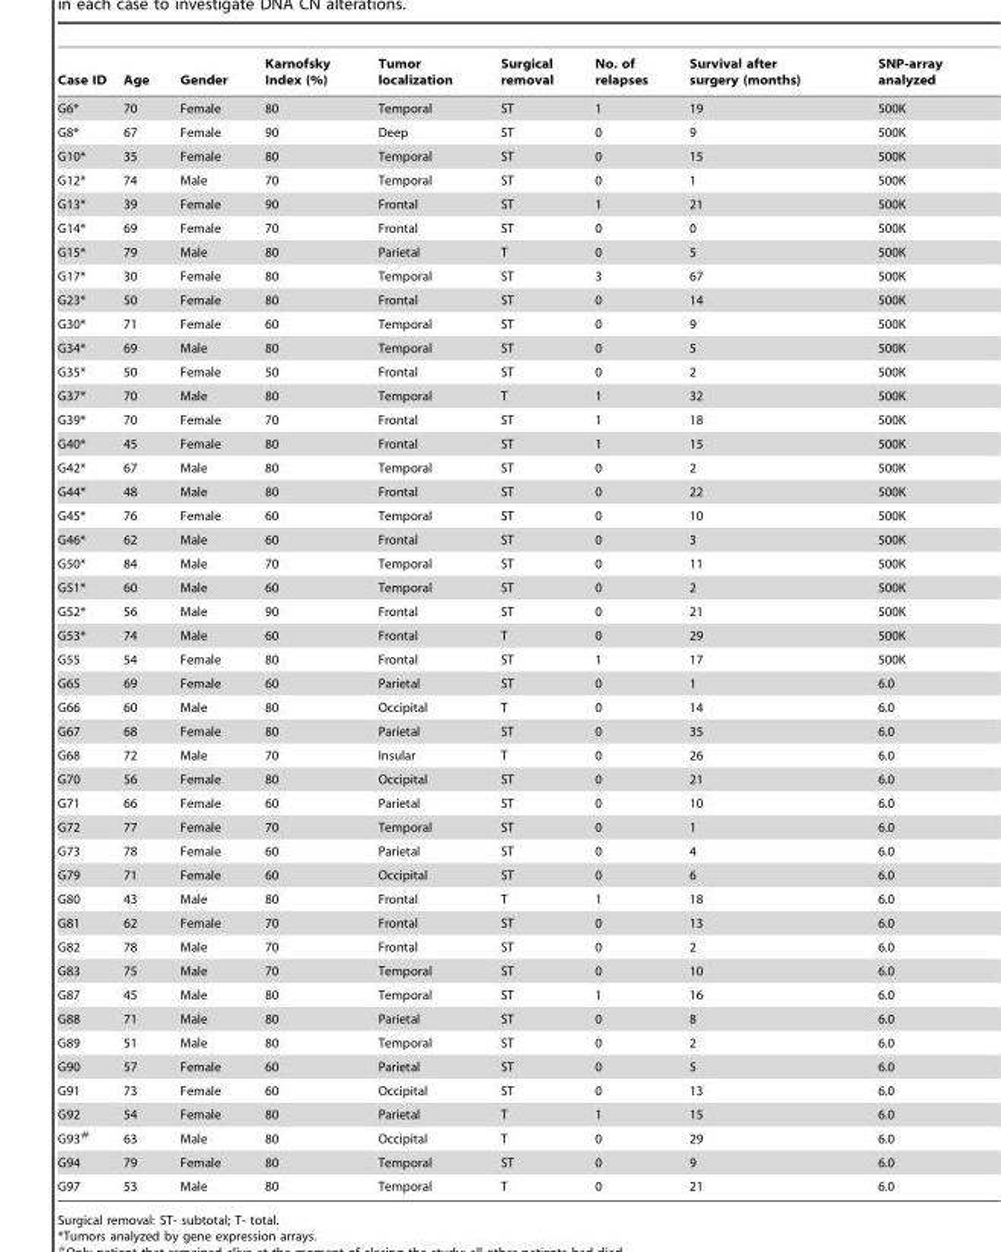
<table><thead><tr><td>Case ID</td><td>Age</td><td>Gender</td><td>Karnofsky Index (%)</td><td>Tumor localization</td><td>Surgical removal</td><td>No. of relapses</td><td>Survival after surgery (months)</td><td>SNP-array analyzed</td></tr></thead><tbody><tr><td>G6*</td><td>70</td><td>Female</td><td>80</td><td>Temporal</td><td>ST</td><td>1</td><td>19</td><td>500K</td></tr><tr><td>G8*</td><td>67</td><td>Female</td><td>90</td><td>Deep</td><td>ST</td><td>0</td><td>9</td><td>500K</td></tr><tr><td>G10*</td><td>35</td><td>Female</td><td>80</td><td>Temporal</td><td>ST</td><td>0</td><td>15</td><td>500K</td></tr><tr><td>G12*</td><td>74</td><td>Male</td><td>70</td><td>Temporal</td><td>ST</td><td>0</td><td>1</td><td>500K</td></tr><tr><td>G13*</td><td>39</td><td>Female</td><td>90</td><td>Frontal</td><td>ST</td><td>1</td><td>21</td><td>500K</td></tr><tr><td>G14*</td><td>69</td><td>Female</td><td>70</td><td>Frontal</td><td>ST</td><td>0</td><td>0</td><td>500K</td></tr><tr><td>G15*</td><td>79</td><td>Male</td><td>80</td><td>Parietal</td><td>T</td><td>0</td><td>5</td><td>500K</td></tr><tr><td>G17*</td><td>30</td><td>Female</td><td>80</td><td>Temporal</td><td>ST</td><td>3</td><td>67</td><td>500K</td></tr><tr><td>G23*</td><td>50</td><td>Female</td><td>80</td><td>Frontal</td><td>ST</td><td>0</td><td>14</td><td>500K</td></tr><tr><td>G30*</td><td>71</td><td>Female</td><td>60</td><td>Temporal</td><td>ST</td><td>0</td><td>9</td><td>500K</td></tr><tr><td>G34*</td><td>69</td><td>Male</td><td>80</td><td>Temporal</td><td>ST</td><td>0</td><td>5</td><td>500K</td></tr><tr><td>G35*</td><td>50</td><td>Female</td><td>50</td><td>Frontal</td><td>ST</td><td>0</td><td>2</td><td>500K</td></tr><tr><td>G37*</td><td>70</td><td>Male</td><td>80</td><td>Temporal</td><td>T</td><td>1</td><td>32</td><td>500K</td></tr><tr><td>G39*</td><td>70</td><td>Female</td><td>70</td><td>Frontal</td><td>ST</td><td>1</td><td>18</td><td>500K</td></tr><tr><td>G40*</td><td>45</td><td>Female</td><td>80</td><td>Frontal</td><td>ST</td><td>1</td><td>15</td><td>500K</td></tr><tr><td>G42*</td><td>67</td><td>Male</td><td>80</td><td>Temporal</td><td>ST</td><td>0</td><td>2</td><td>500K</td></tr><tr><td>G44*</td><td>48</td><td>Male</td><td>80</td><td>Frontal</td><td>ST</td><td>0</td><td>22</td><td>500K</td></tr><tr><td>G45*</td><td>76</td><td>Female</td><td>60</td><td>Temporal</td><td>ST</td><td>0</td><td>10</td><td>500K</td></tr><tr><td>G46*</td><td>62</td><td>Male</td><td>60</td><td>Frontal</td><td>ST</td><td>0</td><td>3</td><td>500K</td></tr><tr><td>G50*</td><td>84</td><td>Male</td><td>70</td><td>Temporal</td><td>ST</td><td>0</td><td>11</td><td>500K</td></tr><tr><td>G51*</td><td>60</td><td>Male</td><td>60</td><td>Temporal</td><td>ST</td><td>0</td><td>2</td><td>500K</td></tr><tr><td>G52*</td><td>56</td><td>Male</td><td>90</td><td>Frontal</td><td>ST</td><td>0</td><td>21</td><td>500K</td></tr><tr><td>G53*</td><td>74</td><td>Male</td><td>60</td><td>Frontal</td><td>T</td><td>0</td><td>29</td><td>500K</td></tr><tr><td>G55</td><td>54</td><td>Female</td><td>80</td><td>Frontal</td><td>ST</td><td>1</td><td>17</td><td>500K</td></tr><tr><td>G65</td><td>69</td><td>Female</td><td>60</td><td>Parietal</td><td>ST</td><td>0</td><td>1</td><td>6.0</td></tr><tr><td>G66</td><td>60</td><td>Male</td><td>80</td><td>Occipital</td><td>T</td><td>0</td><td>14</td><td>6.0</td></tr><tr><td>G67</td><td>68</td><td>Female</td><td>80</td><td>Parietal</td><td>ST</td><td>0</td><td>35</td><td>6.0</td></tr><tr><td>G68</td><td>72</td><td>Male</td><td>70</td><td>Insular</td><td>T</td><td>0</td><td>26</td><td>6.0</td></tr><tr><td>G70</td><td>56</td><td>Female</td><td>80</td><td>Occipital</td><td>ST</td><td>0</td><td>21</td><td>6.0</td></tr><tr><td>G71</td><td>66</td><td>Female</td><td>60</td><td>Parietal</td><td>ST</td><td>0</td><td>10</td><td>6.0</td></tr><tr><td>G72</td><td>77</td><td>Female</td><td>70</td><td>Temporal</td><td>ST</td><td>0</td><td>1</td><td>6.0</td></tr><tr><td>G73</td><td>78</td><td>Female</td><td>60</td><td>Parietal</td><td>ST</td><td>0</td><td>4</td><td>6.0</td></tr><tr><td>G79</td><td>71</td><td>Female</td><td>60</td><td>Occipital</td><td>ST</td><td>0</td><td>6</td><td>6.0</td></tr><tr><td>G80</td><td>43</td><td>Male</td><td>80</td><td>Frontal</td><td>T</td><td>1</td><td>18</td><td>6.0</td></tr><tr><td>G81</td><td>62</td><td>Female</td><td>70</td><td>Frontal</td><td>ST</td><td>0</td><td>13</td><td>6.0</td></tr><tr><td>G82</td><td>78</td><td>Male</td><td>70</td><td>Frontal</td><td>ST</td><td>0</td><td>2</td><td>6.0</td></tr><tr><td>G83</td><td>75</td><td>Male</td><td>70</td><td>Temporal</td><td>ST</td><td>0</td><td>10</td><td>6.0</td></tr><tr><td>G87</td><td>45</td><td>Male</td><td>80</td><td>Temporal</td><td>ST</td><td>1</td><td>16</td><td>6.0</td></tr><tr><td>G88</td><td>71</td><td>Male</td><td>80</td><td>Parietal</td><td>ST</td><td>0</td><td>8</td><td>6.0</td></tr><tr><td>G89</td><td>51</td><td>Male</td><td>80</td><td>Temporal</td><td>ST</td><td>0</td><td>2</td><td>6.0</td></tr><tr><td>G90</td><td>57</td><td>Female</td><td>60</td><td>Parietal</td><td>ST</td><td>0</td><td>5</td><td>6.0</td></tr><tr><td>G91</td><td>73</td><td>Female</td><td>60</td><td>Occipital</td><td>ST</td><td>0</td><td>13</td><td>6.0</td></tr><tr><td>G92</td><td>54</td><td>Female</td><td>80</td><td>Parietal</td><td>T</td><td>1</td><td>15</td><td>6.0</td></tr><tr><td>G93#</td><td>63</td><td>Male</td><td>80</td><td>Occipital</td><td>T</td><td>0</td><td>29</td><td>6.0</td></tr><tr><td>G94</td><td>79</td><td>Female</td><td>80</td><td>Temporal</td><td>ST</td><td>0</td><td>9</td><td>6.0</td></tr><tr><td>G97</td><td>53</td><td>Male</td><td>80</td><td>Temporal</td><td>T</td><td>0</td><td>21</td><td>6.0</td></tr></tbody></table>